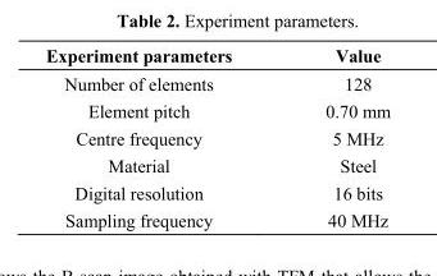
<table><thead><tr><td>Experiment parameters</td><td>Value</td></tr></thead><tbody><tr><td>Number of elements</td><td>128</td></tr><tr><td>Element pitch</td><td>0.70 mm</td></tr><tr><td>Centre frequency</td><td>5 MHz</td></tr><tr><td>Material</td><td>Steel</td></tr><tr><td>Digital resolution</td><td>16 bits</td></tr><tr><td>Sampling frequency</td><td>40 MHz</td></tr></tbody></table>